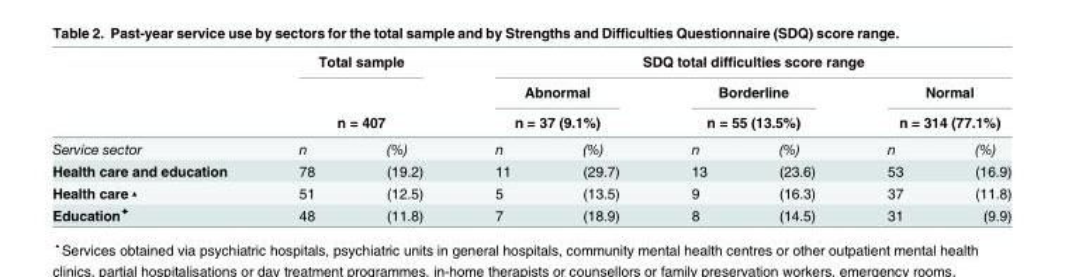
<table><thead><tr><td rowspan="4">Service sector</td><td colspan="2">Total sample</td><td colspan="6">SDQ total difficulties score range</td></tr><tr><td></td><td></td><td rowspan="2" colspan="2">Abnormal n = 37 (9.1%)</td><td rowspan="2" colspan="2">Borderline n = 55 (13.5%)</td><td rowspan="2" colspan="2">Normal n = 314 (77.1%)</td></tr><tr><td colspan="2">n = 407</td></tr><tr><td>n</td><td>(%)</td><td>n</td><td>(%)</td><td>n</td><td>(%)</td><td>n</td><td>(%)</td></tr></thead><tbody><tr><td>Health care and education</td><td>78</td><td>(19.2)</td><td>11</td><td>(29.7)</td><td>13</td><td>(23.6)</td><td>53</td><td>(16.9)</td></tr><tr><td>Health care▴</td><td>51</td><td>(12.5)</td><td>5</td><td>(13.5)</td><td>9</td><td>(16.3)</td><td>37</td><td>(11.8)</td></tr><tr><td>Education<sup>✦</sup></td><td>48</td><td>(11.8)</td><td>7</td><td>(18.9)</td><td>8</td><td>(14.5)</td><td>31</td><td>(9.9)</td></tr></tbody></table>